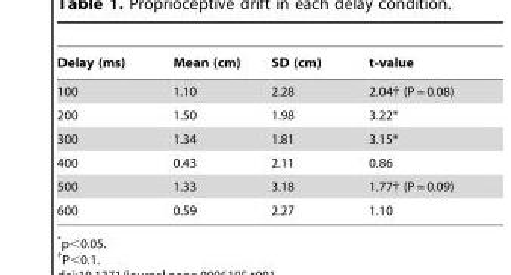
<table><thead><tr><td>Delay (ms)</td><td>Mean (cm)</td><td>SD (cm)</td><td>t-value</td></tr></thead><tbody><tr><td>100</td><td>1.10</td><td>2.28</td><td>2.04† (P = 0.08)</td></tr><tr><td>200</td><td>1.50</td><td>1.98</td><td>3.22*</td></tr><tr><td>300</td><td>1.34</td><td>1.81</td><td>3.15*</td></tr><tr><td>400</td><td>0.43</td><td>2.11</td><td>0.86</td></tr><tr><td>500</td><td>1.33</td><td>3.18</td><td>1.77† (P = 0.09)</td></tr><tr><td>600</td><td>0.59</td><td>2.27</td><td>1.10</td></tr></tbody></table>